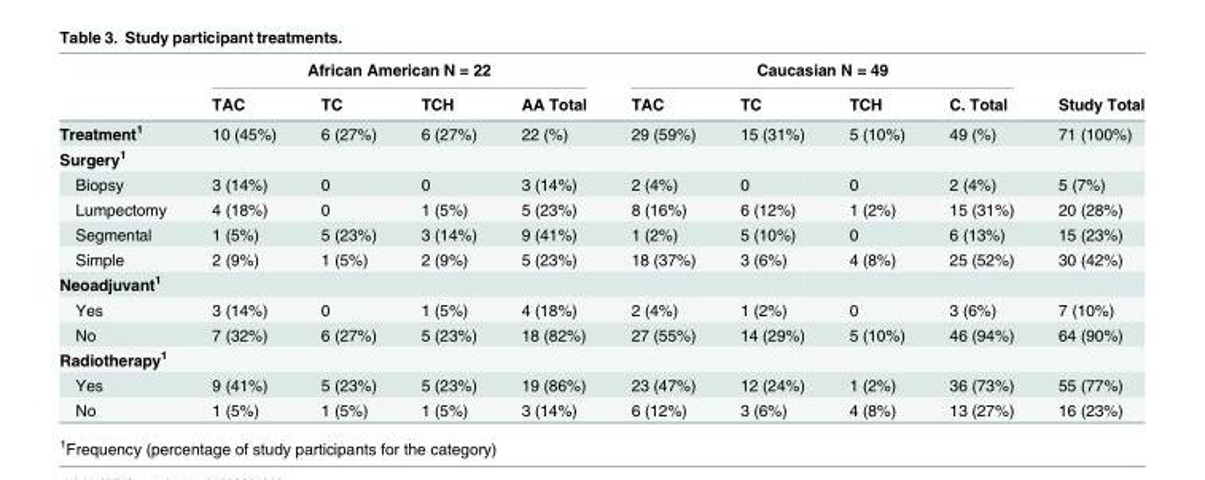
<table><thead><tr><td rowspan="2"></td><td colspan="4">African American N = 22</td><td colspan="4">Caucasian N = 49</td><td rowspan="2">Study Total</td></tr><tr><td>TAC</td><td>TC</td><td>TCH</td><td>AA Total</td><td>TAC</td><td>TC</td><td>TCH</td><td>C. Total</td></tr></thead><tbody><tr><td>Treatment<sup>1</sup></td><td>10 (45%)</td><td>6 (27%)</td><td>6 (27%)</td><td>22 (%)</td><td>29 (59%)</td><td>15 (31%)</td><td>5 (10%)</td><td>49 (%)</td><td>71 (100%)</td></tr><tr><td colspan="10">Surgery<sup>1</sup></td></tr><tr><td>Biopsy</td><td>3 (14%)</td><td>0</td><td>0</td><td>3 (14%)</td><td>2 (4%)</td><td>0</td><td>0</td><td>2 (4%)</td><td>5 (7%)</td></tr><tr><td>Lumpectomy</td><td>4 (18%)</td><td>0</td><td>1 (5%)</td><td>5 (23%)</td><td>8 (16%)</td><td>6 (12%)</td><td>1 (2%)</td><td>15 (31%)</td><td>20 (28%)</td></tr><tr><td>Segmental</td><td>1 (5%)</td><td>5 (23%)</td><td>3 (14%)</td><td>9 (41%)</td><td>1 (2%)</td><td>5 (10%)</td><td>0</td><td>6 (13%)</td><td>15 (23%)</td></tr><tr><td>Simple</td><td>2 (9%)</td><td>1 (5%)</td><td>2 (9%)</td><td>5 (23%)</td><td>18 (37%)</td><td>3 (6%)</td><td>4 (8%)</td><td>25 (52%)</td><td>30 (42%)</td></tr><tr><td colspan="10">Neoadjuvant<sup>1</sup></td></tr><tr><td>Yes</td><td>3 (14%)</td><td>0</td><td>1 (5%)</td><td>4 (18%)</td><td>2 (4%)</td><td>1 (2%)</td><td>0</td><td>3 (6%)</td><td>7 (10%)</td></tr><tr><td>No</td><td>7 (32%)</td><td>6 (27%)</td><td>5 (23%)</td><td>18 (82%)</td><td>27 (55%)</td><td>14 (29%)</td><td>5 (10%)</td><td>46 (94%)</td><td>64 (90%)</td></tr><tr><td colspan="10">Radiotherapy<sup>1</sup></td></tr><tr><td>Yes</td><td>9 (41%)</td><td>5 (23%)</td><td>5 (23%)</td><td>19 (86%)</td><td>23 (47%)</td><td>12 (24%)</td><td>1 (2%)</td><td>36 (73%)</td><td>55 (77%)</td></tr><tr><td>No</td><td>1 (5%)</td><td>1 (5%)</td><td>1 (5%)</td><td>3 (14%)</td><td>6 (12%)</td><td>3 (6%)</td><td>4 (8%)</td><td>13 (27%)</td><td>16 (23%)</td></tr></tbody></table>